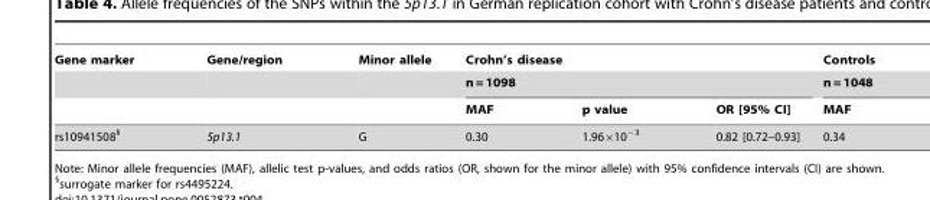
<table><thead><tr><td rowspan="3">Gene marker</td><td rowspan="3">Gene/region</td><td rowspan="3">Minor allele</td><td rowspan="2" colspan="3">Crohn’s disease n = 1098</td><td rowspan="3">Controls n = 1048 MAF</td></tr><tr></tr><tr><td>MAF</td><td>p value</td><td>OR [95% CI]</td></tr></thead><tbody><tr><td>rs10941508§</td><td>5p13.1</td><td>G</td><td>0.30</td><td>1.96×10<sup>−3</sup></td><td>0.82 [0.72–0.93]</td><td>0.34</td></tr></tbody></table>